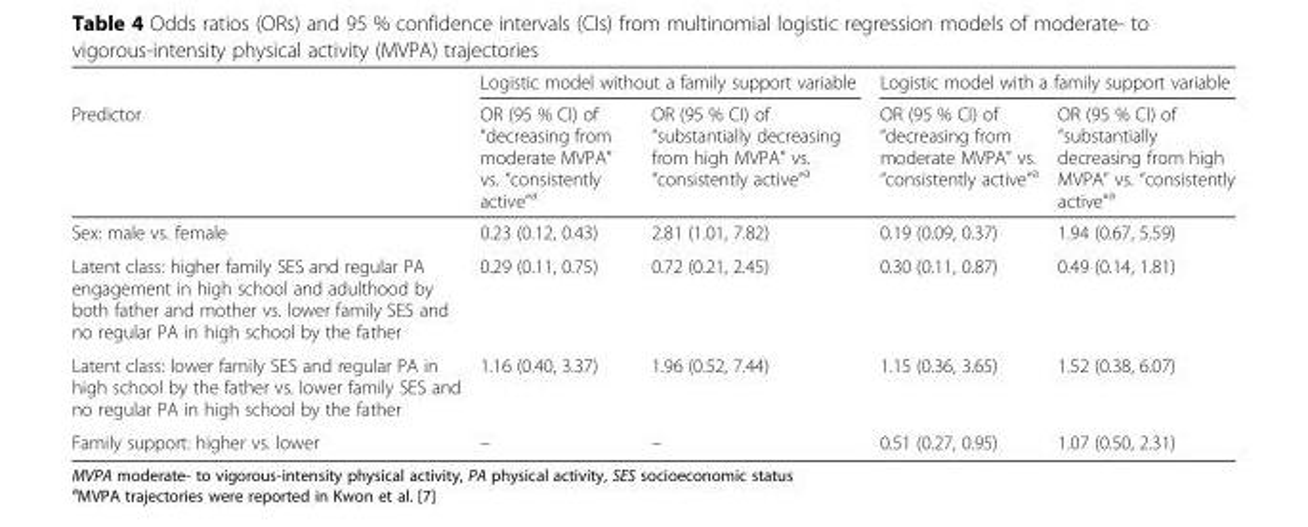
<table><thead><tr><td rowspan="2">Predictor</td><td colspan="2">Logistic model without a family support variable</td><td colspan="2">Logistic model with a family support variable</td></tr><tr><td>OR (95 % CI) of “decreasing from moderate MVPA” vs. “consistently active”<sup>a</sup></td><td>OR (95 % CI) of “substantially decreasing from high MVPA” vs. “consistently active”<sup>a</sup></td><td>OR (95 % CI) of “decreasing from moderate MVPA” vs. “consistently active”<sup>a</sup></td><td>OR (95 % CI) of “substantially decreasing from high MVPA” vs. “consistently active”<sup>a</sup></td></tr></thead><tbody><tr><td>Sex: male vs. female</td><td>0.23 (0.12, 0.43)</td><td>2.81 (1.01, 7.82)</td><td>0.19 (0.09, 0.37)</td><td>1.94 (0.67, 5.59)</td></tr><tr><td>Latent class: higher family SES and regular PA engagement in high school and adulthood by both father and mother vs. lower family SES and no regular PA in high school by the father</td><td>0.29 (0.11, 0.75)</td><td>0.72 (0.21, 2.45)</td><td>0.30 (0.11, 0.87)</td><td>0.49 (0.14, 1.81)</td></tr><tr><td>Latent class: lower family SES and regular PA in high school by the father vs. lower family SES and no regular PA in high school by the father</td><td>1.16 (0.40, 3.37)</td><td>1.96 (0.52, 7.44)</td><td>1.15 (0.36, 3.65)</td><td>1.52 (0.38, 6.07)</td></tr><tr><td>Family support: higher vs. lower</td><td>–</td><td>–</td><td>0.51 (0.27, 0.95)</td><td>1.07 (0.50, 2.31)</td></tr></tbody></table>